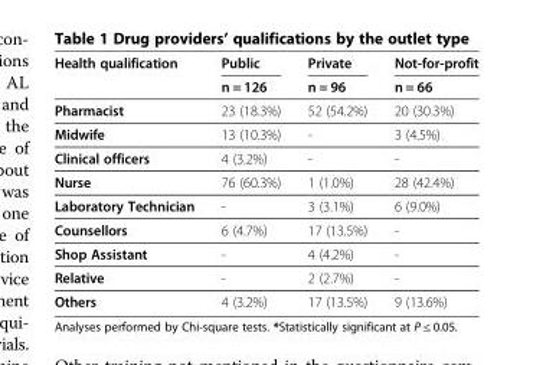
<table><thead><tr><td rowspan="2">Health qualification</td><td rowspan="2">Public n = 126</td><td rowspan="2">Private n = 96</td><td rowspan="2">Not-for-profit n = 66</td></tr><tr></tr></thead><tbody><tr><td>Pharmacist</td><td>23 (18.3%)</td><td>52 (54.2%)</td><td>20 (30.3%)</td></tr><tr><td>Midwife</td><td>13 (10.3%)</td><td>-</td><td>3 (4.5%)</td></tr><tr><td>Clinical officers</td><td>4 (3.2%)</td><td>-</td><td>-</td></tr><tr><td>Nurse</td><td>76 (60.3%)</td><td>1 (1.0%)</td><td>28 (42.4%)</td></tr><tr><td>Laboratory Technician</td><td>-</td><td>3 (3.1%)</td><td>6 (9.0%)</td></tr><tr><td>Counsellors</td><td>6 (4.7%)</td><td>17 (13.5%)</td><td>-</td></tr><tr><td>Shop Assistant</td><td>-</td><td>4 (4.2%)</td><td>-</td></tr><tr><td>Relative</td><td>-</td><td>2 (2.7%)</td><td>-</td></tr><tr><td>Others</td><td>4 (3.2%)</td><td>17 (13.5%)</td><td>9 (13.6%)</td></tr></tbody></table>